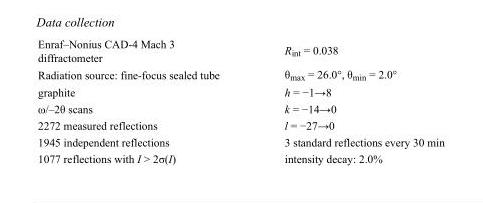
<table><tbody><tr><td>Enraf–Nonius CAD-4 Mach 3 diffractometer</td><td>R<sub>int</sub> = 0.038</td></tr><tr><td>Radiation source: fine-focus sealed tube</td><td>θ<sub>max</sub> = 26.0°, θ<sub>min</sub> = 2.0°</td></tr><tr><td>graphite</td><td>h = −1→8</td></tr><tr><td>ω/–2θ scans</td><td>k = −14→0</td></tr><tr><td>2272 measured reflections</td><td>l = −27→0</td></tr><tr><td>1945 independent reflections</td><td>3 standard reflections every 30 min</td></tr><tr><td>1077 reflections with I &gt; 2σ(I)</td><td>intensity decay: 2.0%</td></tr></tbody></table>